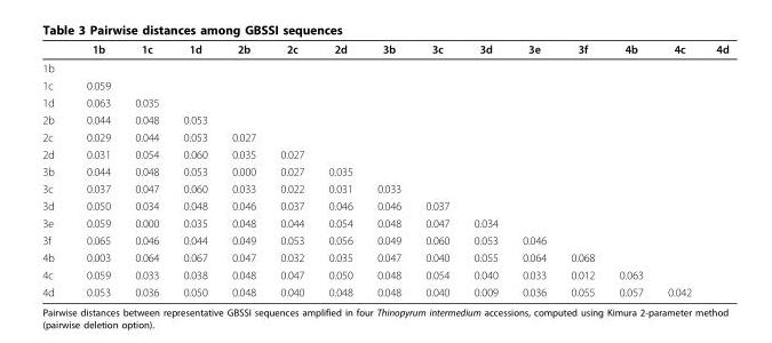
<table><thead><tr><td></td><td>1b</td><td>1c</td><td>1d</td><td>2b</td><td>2c</td><td>2d</td><td>3b</td><td>3c</td><td>3d</td><td>3e</td><td>3f</td><td>4b</td><td>4c</td><td>4d</td></tr></thead><tbody><tr><td colspan="15">1b</td></tr><tr><td>1c</td><td>0.059</td><td></td><td></td><td></td><td></td><td></td><td></td><td></td><td></td><td></td><td></td><td></td><td></td><td></td></tr><tr><td>1d</td><td>0.063</td><td>0.035</td><td></td><td></td><td></td><td></td><td></td><td></td><td></td><td></td><td></td><td></td><td></td><td></td></tr><tr><td>2b</td><td>0.044</td><td>0.048</td><td>0.053</td><td></td><td></td><td></td><td></td><td></td><td></td><td></td><td></td><td></td><td></td><td></td></tr><tr><td>2c</td><td>0.029</td><td>0.044</td><td>0.053</td><td>0.027</td><td></td><td></td><td></td><td></td><td></td><td></td><td></td><td></td><td></td><td></td></tr><tr><td>2d</td><td>0.031</td><td>0.054</td><td>0.060</td><td>0.035</td><td>0.027</td><td></td><td></td><td></td><td></td><td></td><td></td><td></td><td></td><td></td></tr><tr><td>3b</td><td>0.044</td><td>0.048</td><td>0.053</td><td>0.000</td><td>0.027</td><td>0.035</td><td></td><td></td><td></td><td></td><td></td><td></td><td></td><td></td></tr><tr><td>3c</td><td>0.037</td><td>0.047</td><td>0.060</td><td>0.033</td><td>0.022</td><td>0.031</td><td>0.033</td><td></td><td></td><td></td><td></td><td></td><td></td><td></td></tr><tr><td>3d</td><td>0.050</td><td>0.034</td><td>0.048</td><td>0.046</td><td>0.037</td><td>0.046</td><td>0.046</td><td>0.037</td><td></td><td></td><td></td><td></td><td></td><td></td></tr><tr><td>3e</td><td>0.059</td><td>0.000</td><td>0.035</td><td>0.048</td><td>0.044</td><td>0.054</td><td>0.048</td><td>0.047</td><td>0.034</td><td></td><td></td><td></td><td></td><td></td></tr><tr><td>3f</td><td>0.065</td><td>0.046</td><td>0.044</td><td>0.049</td><td>0.053</td><td>0.056</td><td>0.049</td><td>0.060</td><td>0.053</td><td>0.046</td><td></td><td></td><td></td><td></td></tr><tr><td>4b</td><td>0.003</td><td>0.064</td><td>0.067</td><td>0.047</td><td>0.032</td><td>0.035</td><td>0.047</td><td>0.040</td><td>0.055</td><td>0.064</td><td>0.068</td><td></td><td></td><td></td></tr><tr><td>4c</td><td>0.059</td><td>0.033</td><td>0.038</td><td>0.048</td><td>0.047</td><td>0.050</td><td>0.048</td><td>0.054</td><td>0.040</td><td>0.033</td><td>0.012</td><td>0.063</td><td></td><td></td></tr><tr><td>4d</td><td>0.053</td><td>0.036</td><td>0.050</td><td>0.048</td><td>0.040</td><td>0.048</td><td>0.048</td><td>0.040</td><td>0.009</td><td>0.036</td><td>0.055</td><td>0.057</td><td>0.042</td><td></td></tr></tbody></table>